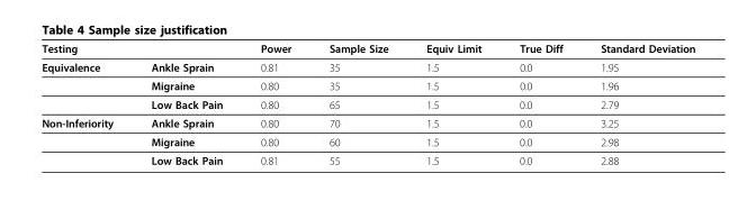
<table><thead><tr><td>Testing</td><td></td><td>Power</td><td>Sample Size</td><td>Equiv Limit</td><td>True Diff</td><td>Standard Deviation</td></tr></thead><tbody><tr><td rowspan="3">Equivalence</td><td>Ankle Sprain</td><td>0.81</td><td>35</td><td>1.5</td><td>0.0</td><td>1.95</td></tr><tr><td>Migraine</td><td>0.80</td><td>35</td><td>1.5</td><td>0.0</td><td>1.96</td></tr><tr><td>Low Back Pain</td><td>0.80</td><td>65</td><td>1.5</td><td>0.0</td><td>2.79</td></tr><tr><td rowspan="3">Non-Inferiority</td><td>Ankle Sprain</td><td>0.80</td><td>70</td><td>1.5</td><td>0.0</td><td>3.25</td></tr><tr><td>Migraine</td><td>0.80</td><td>60</td><td>1.5</td><td>0.0</td><td>2.98</td></tr><tr><td>Low Back Pain</td><td>0.81</td><td>55</td><td>1.5</td><td>0.0</td><td>2.88</td></tr></tbody></table>